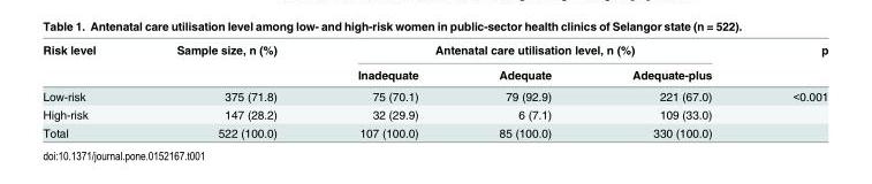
<table><thead><tr><td rowspan="2">Risk level</td><td rowspan="2">Sample size, n (%)</td><td colspan="3">Antenatal care utilisation level, n (%)</td><td rowspan="2">p</td></tr><tr><td>Inadequate</td><td>Adequate</td><td>Adequate-plus</td></tr></thead><tbody><tr><td>Low-risk</td><td>375 (71.8)</td><td>75 (70.1)</td><td>79 (92.9)</td><td>221 (67.0)</td><td>&lt;0.001</td></tr><tr><td>High-risk</td><td>147 (28.2)</td><td>32 (29.9)</td><td>6 (7.1)</td><td>109 (33.0)</td><td></td></tr><tr><td>Total</td><td>522 (100.0)</td><td>107 (100.0)</td><td>85 (100.0)</td><td>330 (100.0)</td><td></td></tr></tbody></table>